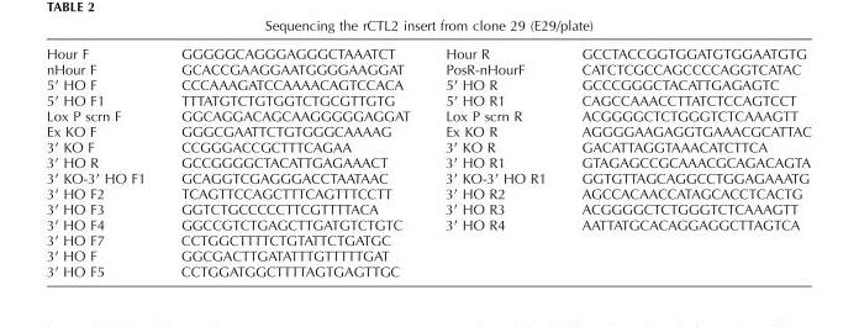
<table><tbody><tr><td>Hour F</td><td>GGGGGCAGGGAGGGCTAAATCT</td><td>Hour R</td><td>GCCTACCGGTGGATGTGGAATGTG</td></tr><tr><td>nHour F</td><td>GCACCGAAGGAATGGGGAAGGAT</td><td>PosR-nHourF</td><td>CATCTCGCCAGCCCCAGGTCATAC</td></tr><tr><td>5′ HO F</td><td>CCCAAAGATCCAAAACAGTCCACA</td><td>5′ HO R</td><td>GCCCGGGCTACATTGAGAGTC</td></tr><tr><td>5′ HO F1</td><td>TTTATGTCTGTGGTCTGCGTTGTG</td><td>5′ HO R1</td><td>CAGCCAAACCTTATCTCCAGTCCT</td></tr><tr><td>Lox P scrn F</td><td>GGCAGGACAGCAAGGGGGAGGAT</td><td>Lox P scrn R</td><td>ACGGGGCTCTGGGTCTCAAAGTT</td></tr><tr><td>Ex KO F</td><td>GGGCGAATTCTGTGGGCAAAAG</td><td>Ex KO R</td><td>AGGGGAAGAGGTGAAACGCATTAC</td></tr><tr><td>3′ KO F</td><td>CCGGGACCGCTTTCAGAA</td><td>3′ KO R</td><td>GACATTAGGTAAACATCTTCA</td></tr><tr><td>3′ HO R</td><td>GCCGGGGCTACATTGAGAAACT</td><td>3′ HO R1</td><td>GTAGAGCCGCAAACGCAGACAGTA</td></tr><tr><td>3′ KO-3′ HO F1</td><td>GCAGGTCGAGGGACCTAATAAC</td><td>3′ KO-3′ HO R1</td><td>GGTGTTAGCAGGCCTGGAGAAATG</td></tr><tr><td>3′ HO F2</td><td>TCAGTTCCAGCTTTCAGTTTCCTT</td><td>3′ HO R2</td><td>AGCCACAACCATAGCACCTCACTG</td></tr><tr><td>3′ HO F3</td><td>GGTCTGCCCCCTTCGTTTTACA</td><td>3′ HO R3</td><td>ACGGGGCTCTGGGTCTCAAAGTT</td></tr><tr><td>3′ HO F4</td><td>GGCCGTCTGAGCTTGATGTCTGTC</td><td>3′ HO R4</td><td>AATTATGCACAGGAGGCTTAGTCA</td></tr><tr><td>3′ HO F7</td><td>CCTGGCTTTTCTGTATTCTGATGC</td><td></td><td></td></tr><tr><td>3′ HO F</td><td>GGCGACTTGATATTTGTTTTTGAT</td><td></td><td></td></tr><tr><td>3′ HO F5</td><td>CCTGGATGGCTTTTAGTGAGTTGC</td><td></td><td></td></tr></tbody></table>